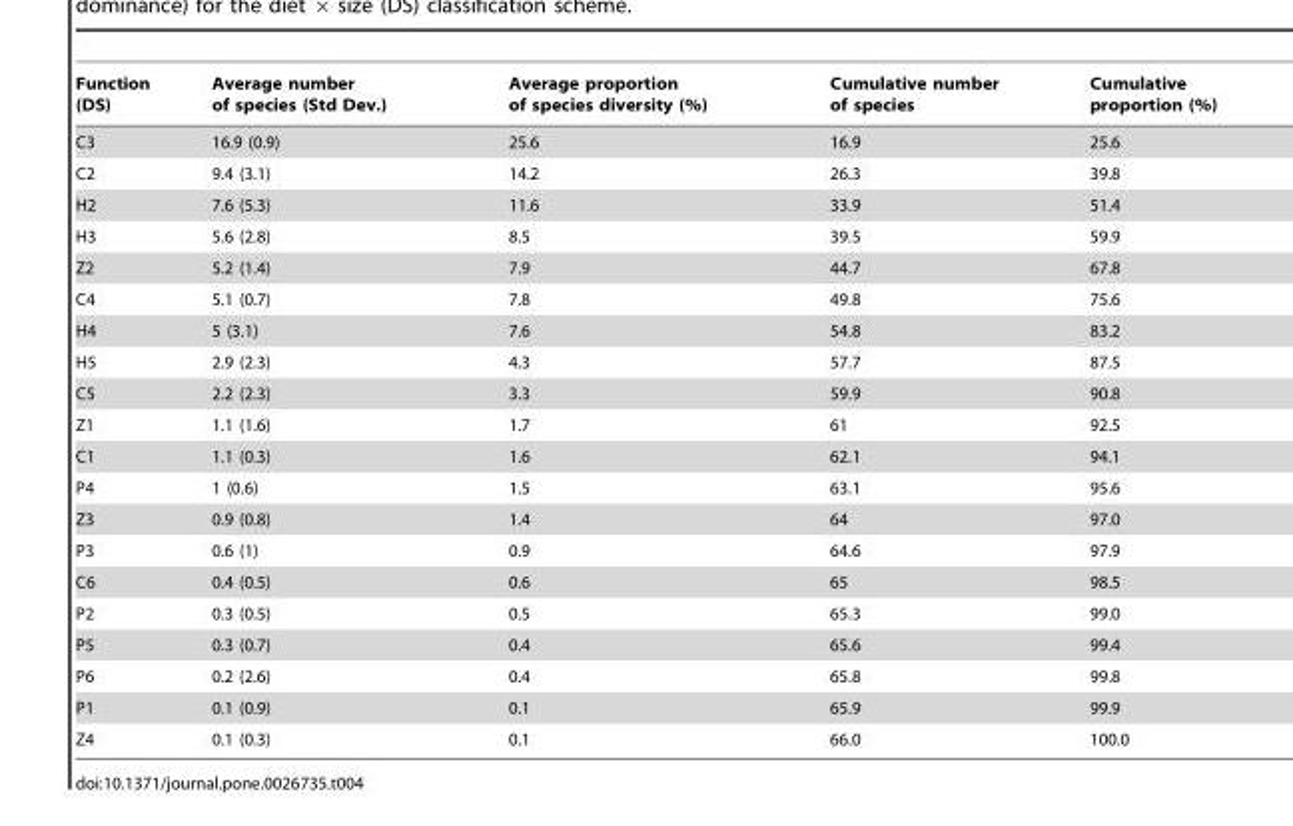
<table><thead><tr><td>Function (DS)</td><td>Average number of species (Std Dev.)</td><td>Average proportion of species diversity (%)</td><td>Cumulative number of species</td><td>Cumulative proportion (%)</td></tr></thead><tbody><tr><td>C3</td><td>16.9 (0.9)</td><td>25.6</td><td>16.9</td><td>25.6</td></tr><tr><td>C2</td><td>9.4 (3.1)</td><td>14.2</td><td>26.3</td><td>39.8</td></tr><tr><td>H2</td><td>7.6 (5.3)</td><td>11.6</td><td>33.9</td><td>51.4</td></tr><tr><td>H3</td><td>5.6 (2.8)</td><td>8.5</td><td>39.5</td><td>59.9</td></tr><tr><td>Z2</td><td>5.2 (1.4)</td><td>7.9</td><td>44.7</td><td>67.8</td></tr><tr><td>C4</td><td>5.1 (0.7)</td><td>7.8</td><td>49.8</td><td>75.6</td></tr><tr><td>H4</td><td>5 (3.1)</td><td>7.6</td><td>54.8</td><td>83.2</td></tr><tr><td>H5</td><td>2.9 (2.3)</td><td>4.3</td><td>57.7</td><td>87.5</td></tr><tr><td>C5</td><td>2.2 (2.3)</td><td>3.3</td><td>59.9</td><td>90.8</td></tr><tr><td>Z1</td><td>1.1 (1.6)</td><td>1.7</td><td>61</td><td>92.5</td></tr><tr><td>C1</td><td>1.1 (0.3)</td><td>1.6</td><td>62.1</td><td>94.1</td></tr><tr><td>P4</td><td>1 (0.6)</td><td>1.5</td><td>63.1</td><td>95.6</td></tr><tr><td>Z3</td><td>0.9 (0.8)</td><td>1.4</td><td>64</td><td>97.0</td></tr><tr><td>P3</td><td>0.6 (1)</td><td>0.9</td><td>64.6</td><td>97.9</td></tr><tr><td>C6</td><td>0.4 (0.5)</td><td>0.6</td><td>65</td><td>98.5</td></tr><tr><td>P2</td><td>0.3 (0.5)</td><td>0.5</td><td>65.3</td><td>99.0</td></tr><tr><td>P5</td><td>0.3 (0.7)</td><td>0.4</td><td>65.6</td><td>99.4</td></tr><tr><td>P6</td><td>0.2 (2.6)</td><td>0.4</td><td>65.8</td><td>99.8</td></tr><tr><td>P1</td><td>0.1 (0.9)</td><td>0.1</td><td>65.9</td><td>99.9</td></tr><tr><td>Z4</td><td>0.1 (0.3)</td><td>0.1</td><td>66.0</td><td>100.0</td></tr></tbody></table>